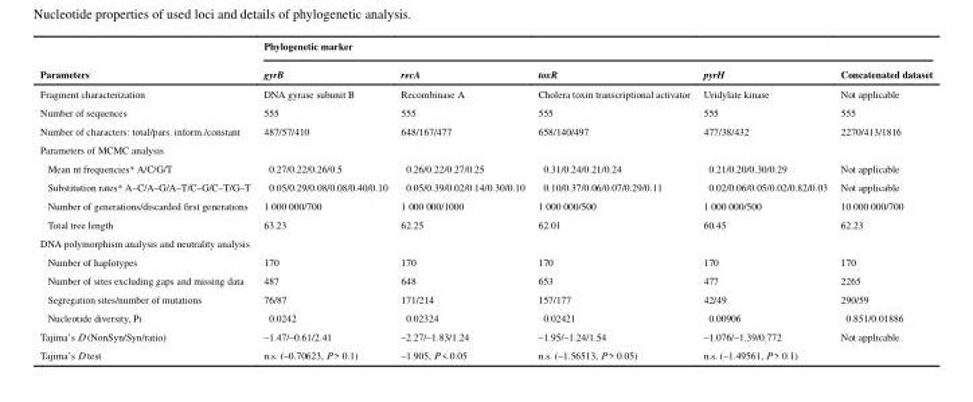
<table><thead><tr><td rowspan="2">Parameters</td><td rowspan="2">Phylogenetic marker gyrB</td><td rowspan="2">recA</td><td rowspan="2">toxR</td><td rowspan="2">pyrH</td><td rowspan="2">Concatenated dataset</td></tr><tr></tr></thead><tbody><tr><td>Fragment characterization</td><td>DNA gyrase subunit B</td><td>Recombinase A</td><td>Cholera toxin transcriptional activator</td><td>Uridylate kinase</td><td>Not applicable</td></tr><tr><td>Number of sequences</td><td>555</td><td>555</td><td>555</td><td>555</td><td>555</td></tr><tr><td>Number of characters: total/pars. inform./constant</td><td>487/57/410</td><td>648/167/477</td><td>658/140/497</td><td>477/38/432</td><td>2270/413/1816</td></tr><tr><td colspan="6">Parameters of MCMC analysis</td></tr><tr><td>Mean nt frequencies* A/C/G/T</td><td>0.27/0.22/0.26/0.5</td><td>0.26/0.22/0.27/0.25</td><td>0.31/0.24/0.21/0.24</td><td>0.21/0.20/0.30/0.29</td><td>Not applicable</td></tr><tr><td>Substitution rates* A–C/A–G/A–T/C–G/C–T/G–T</td><td>0.05/0.29/0.08/0.08/0.40/0.10</td><td>0.05/0.39/0.02/0.14/0.30/0.10</td><td>0.10/0.37/0.06/0.07/0.29/0.11</td><td>0.02/0.06/0.05/0.02/0.82/0.03</td><td>Not applicable</td></tr><tr><td>Number of generations/discarded first generations</td><td>1 000 000/700</td><td>1 000 000/1000</td><td>1 000 000/500</td><td>1 000 000/500</td><td>10 000 000/700</td></tr><tr><td>Total tree length</td><td>63.23</td><td>62.25</td><td>62.01</td><td>60.45</td><td>62.23</td></tr><tr><td colspan="6">DNA polymorphism analysis and neutrality analysis</td></tr><tr><td>Number of haplotypes</td><td>170</td><td>170</td><td>170</td><td>170</td><td>170</td></tr><tr><td>Number of sites excluding gaps and missing data</td><td>487</td><td>648</td><td>653</td><td>477</td><td>2265</td></tr><tr><td>Segregation sites/number of mutations</td><td>76/87</td><td>171/214</td><td>157/177</td><td>42/49</td><td>290/59</td></tr><tr><td>Nucleotide diversity, Pi</td><td>0.0242</td><td>0.02324</td><td>0.02421</td><td>0.00906</td><td>0.851/0.01886</td></tr><tr><td>Tajima’s D (NonSyn/Syn/ratio)</td><td>–1.47/–0.61/2.41</td><td>–2.27/–1.83/1.24</td><td>–1.95/–1.24/1.54</td><td>–1.076/–1.39/0.772</td><td>Not applicable</td></tr><tr><td>Tajima’s D test</td><td>n.s. (–0.70623, P &gt; 0.1)</td><td>–1.905, P &lt; 0.05</td><td>n.s. (–1.56513, P &gt; 0.05)</td><td>n.s. (–1.49561, P &gt; 0.1)</td><td></td></tr></tbody></table>